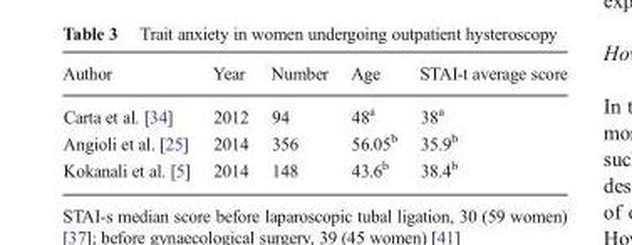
<table><thead><tr><td>Author</td><td>Year</td><td>Number</td><td>Age</td><td>STAI-t average score</td></tr></thead><tbody><tr><td>Carta et al. [34]</td><td>2012</td><td>94</td><td>48<sup>a</sup></td><td>38<sup>a</sup></td></tr><tr><td>Angioli et al. [25]</td><td>2014</td><td>356</td><td>56.05<sup>b</sup></td><td>35.9<sup>b</sup></td></tr><tr><td>Kokanali et al. [5]</td><td>2014</td><td>148</td><td>43.6<sup>b</sup></td><td>38.4<sup>b</sup></td></tr></tbody></table>